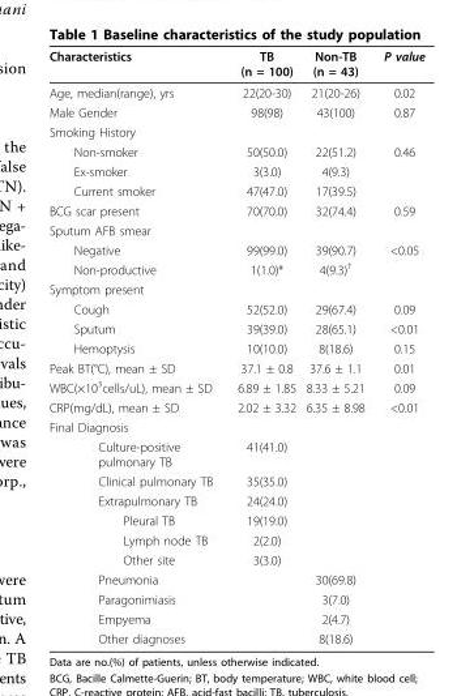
<table><thead><tr><td>Characteristics</td><td>TB (n = 100)</td><td>Non-TB (n = 43)</td><td>P value</td></tr></thead><tbody><tr><td>Age, median(range), yrs</td><td>22(20-30)</td><td>21(20-26)</td><td>0.02</td></tr><tr><td>Male Gender</td><td>98(98)</td><td>43(100)</td><td>0.87</td></tr><tr><td colspan="4">Smoking History</td></tr><tr><td>Non-smoker</td><td>50(50.0)</td><td>22(51.2)</td><td>0.46</td></tr><tr><td>Ex-smoker</td><td>3(3.0)</td><td>4(9.3)</td><td></td></tr><tr><td>Current smoker</td><td>47(47.0)</td><td>17(39.5)</td><td></td></tr><tr><td>BCG scar present</td><td>70(70.0)</td><td>32(74.4)</td><td>0.59</td></tr><tr><td colspan="4">Sputum AFB smear</td></tr><tr><td>Negative</td><td>99(99.0)</td><td>39(90.7)</td><td>&lt;0.05</td></tr><tr><td>Non-productive</td><td>1(1.0)*</td><td>4(9.3)<sup>†</sup></td><td></td></tr><tr><td colspan="4">Symptom present</td></tr><tr><td>Cough</td><td>52(52.0)</td><td>29(67.4)</td><td>0.09</td></tr><tr><td>Sputum</td><td>39(39.0)</td><td>28(65.1)</td><td>&lt;0.01</td></tr><tr><td>Hemoptysis</td><td>10(10.0)</td><td>8(18.6)</td><td>0.15</td></tr><tr><td>Peak BT(°C), mean ± SD</td><td>37.1 ± 0.8</td><td>37.6 ± 1.1</td><td>0.01</td></tr><tr><td>WBC(×10<sup>3</sup>cells/uL), mean ± SD</td><td>6.89 ± 1.85</td><td>8.33 ± 5.21</td><td>0.09</td></tr><tr><td>CRP(mg/dL), mean ± SD</td><td>2.02 ± 3.32</td><td>6.35 ± 8.98</td><td>&lt;0.01</td></tr><tr><td colspan="4">Final Diagnosis</td></tr><tr><td>Culture-positive pulmonary TB</td><td>41(41.0)</td><td></td><td></td></tr><tr><td>Clinical pulmonary TB</td><td>35(35.0)</td><td></td><td></td></tr><tr><td>Extrapulmonary TB</td><td>24(24.0)</td><td></td><td></td></tr><tr><td>Pleural TB</td><td>19(19.0)</td><td></td><td></td></tr><tr><td>Lymph node TB</td><td>2(2.0)</td><td></td><td></td></tr><tr><td>Other site</td><td>3(3.0)</td><td></td><td></td></tr><tr><td>Pneumonia</td><td></td><td>30(69.8)</td><td></td></tr><tr><td>Paragonimiasis</td><td></td><td>3(7.0)</td><td></td></tr><tr><td>Empyema</td><td></td><td>2(4.7)</td><td></td></tr><tr><td>Other diagnoses</td><td></td><td>8(18.6)</td><td></td></tr></tbody></table>